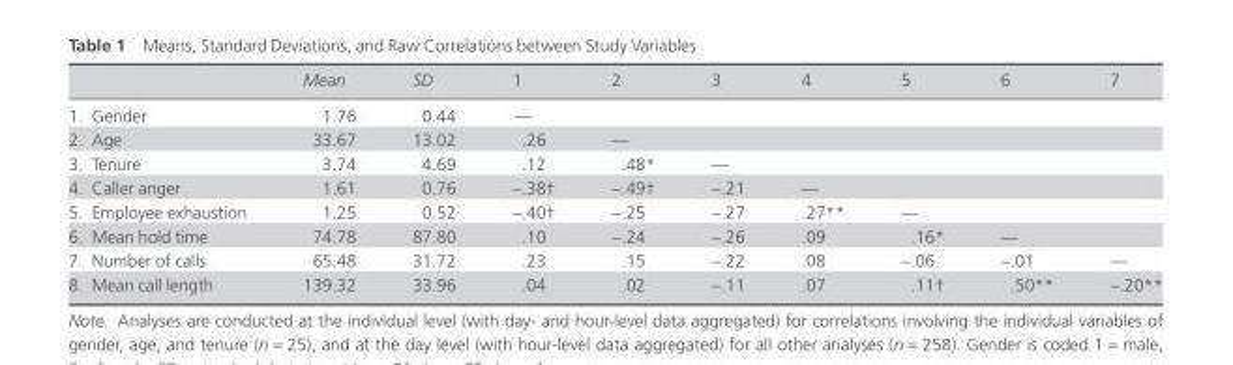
<table><thead><tr><td></td><td>Mean</td><td>SD</td><td>1</td><td>2</td><td>3</td><td>4</td><td>5</td><td>6</td><td>7</td></tr></thead><tbody><tr><td>1. Gender</td><td>1.76</td><td>0.44</td><td>—</td><td></td><td></td><td></td><td></td><td></td><td></td></tr><tr><td>2. Age</td><td>33.67</td><td>13.02</td><td>.26</td><td>—</td><td></td><td></td><td></td><td></td><td></td></tr><tr><td>3. Tenure</td><td>3.74</td><td>4.69</td><td>.12</td><td>.48*</td><td>—</td><td></td><td></td><td></td><td></td></tr><tr><td>4. Caller anger</td><td>1.61</td><td>0.76</td><td>−.38†</td><td>−.49†</td><td>−.21</td><td>—</td><td></td><td></td><td></td></tr><tr><td>5. Employee exhaustion</td><td>1.25</td><td>0.52</td><td>−.40†</td><td>−.25</td><td>−.27</td><td>.27**</td><td>—</td><td></td><td></td></tr><tr><td>6. Mean hold time</td><td>74.78</td><td>87.80</td><td>.10</td><td>−.24</td><td>−.26</td><td>.09</td><td>.16*</td><td>—</td><td></td></tr><tr><td>7. Number of calls</td><td>65.48</td><td>31.72</td><td>.23</td><td>.15</td><td>−.22</td><td>.08</td><td>−.06</td><td>−.01</td><td>—</td></tr><tr><td>8. Mean call length</td><td>139.32</td><td>33.96</td><td>.04</td><td>.02</td><td>−.11</td><td>.07</td><td>.11†</td><td>.50**</td><td>−.20**</td></tr></tbody></table>